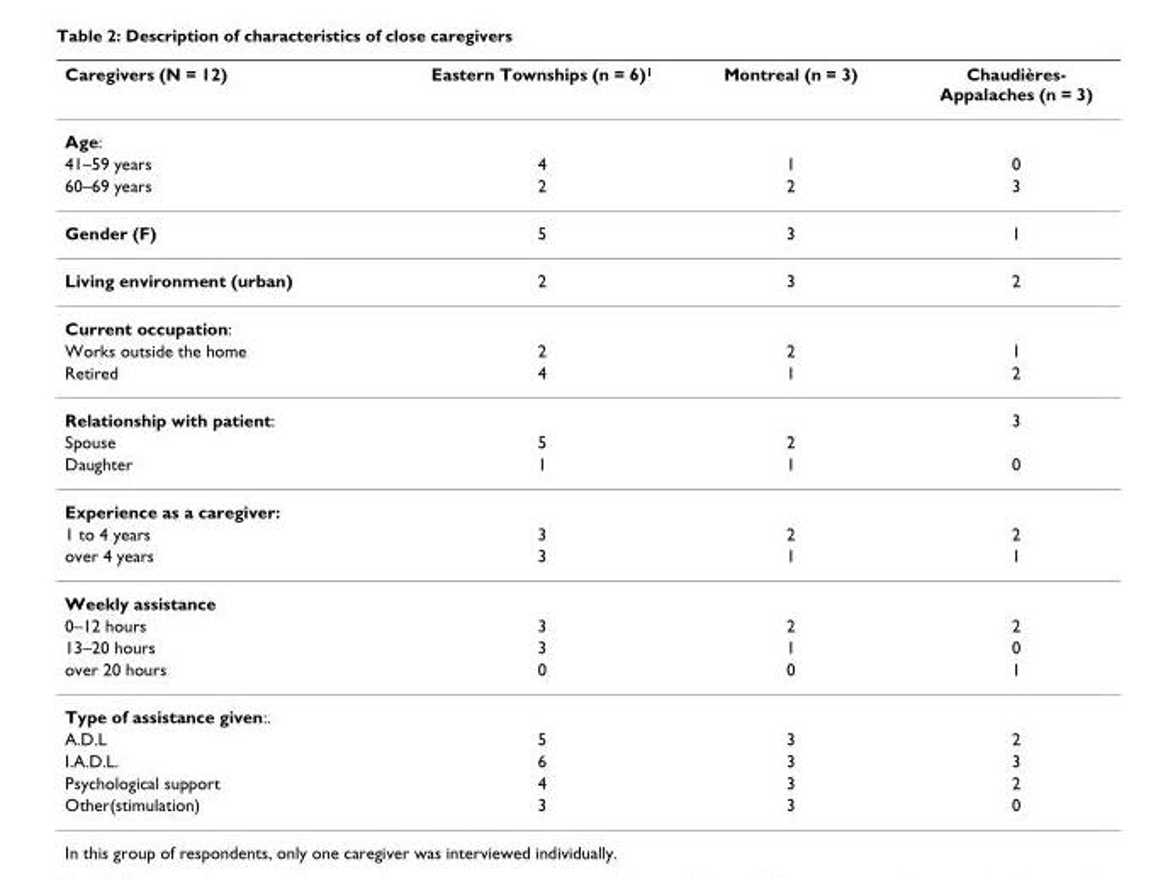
<table><thead><tr><td>Caregivers (N = 12)</td><td>Eastern Townships (n = 6)1</td><td>Montreal (n = 3)</td><td>Chaudières- Appalaches (n = 3)</td></tr></thead><tbody><tr><td colspan="4">Age:</td></tr><tr><td>41–59 years</td><td>4</td><td>1</td><td>0</td></tr><tr><td>60–69 years</td><td>2</td><td>2</td><td>3</td></tr><tr><td>Gender (F)</td><td>5</td><td>3</td><td>1</td></tr><tr><td>Living environment (urban)</td><td>2</td><td>3</td><td>2</td></tr><tr><td colspan="4">Current occupation:</td></tr><tr><td>Works outside the home</td><td>2</td><td>2</td><td>1</td></tr><tr><td>Retired</td><td>4</td><td>1</td><td>2</td></tr><tr><td>Relationship with patient:</td><td></td><td></td><td>3</td></tr><tr><td>Spouse</td><td>5</td><td>2</td><td></td></tr><tr><td>Daughter</td><td>1</td><td>1</td><td>0</td></tr><tr><td colspan="4">Experience as a caregiver:</td></tr><tr><td>1 to 4 years</td><td>3</td><td>2</td><td>2</td></tr><tr><td>over 4 years</td><td>3</td><td>1</td><td>1</td></tr><tr><td colspan="4">Weekly assistance</td></tr><tr><td>0–12 hours</td><td>3</td><td>2</td><td>2</td></tr><tr><td>13–20 hours</td><td>3</td><td>1</td><td>0</td></tr><tr><td>over 20 hours</td><td>0</td><td>0</td><td>1</td></tr><tr><td colspan="4">Type of assistance given:.</td></tr><tr><td>A.D.L</td><td>5</td><td>3</td><td>2</td></tr><tr><td>I.A.D.L.</td><td>6</td><td>3</td><td>3</td></tr><tr><td>Psychological support</td><td>4</td><td>3</td><td>2</td></tr><tr><td>Other(stimulation)</td><td>3</td><td>3</td><td>0</td></tr></tbody></table>